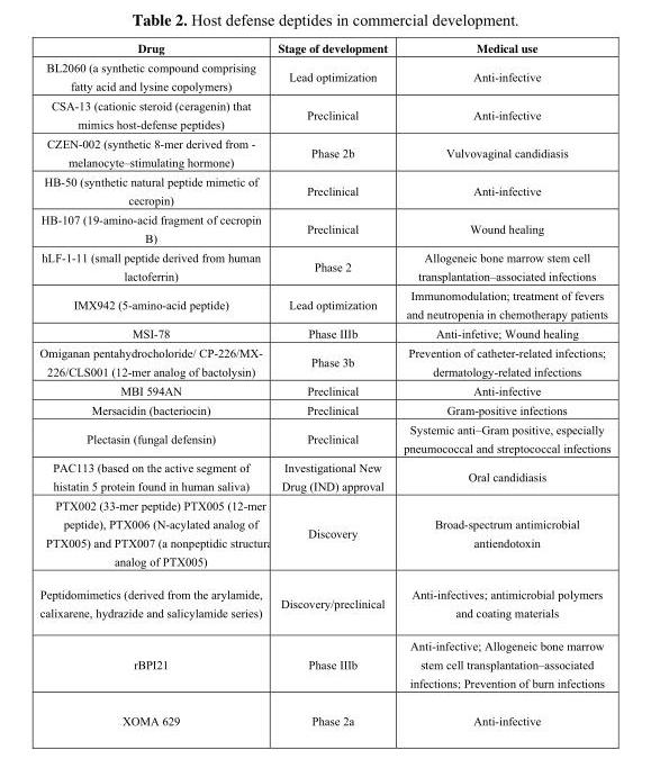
<table><thead><tr><td>Drug</td><td>Stage of development</td><td>Medical use</td></tr></thead><tbody><tr><td>BL2060 (a synthetic compound comprising fatty acid and lysine copolymers)</td><td>Lead optimization</td><td>Anti-infective</td></tr><tr><td>CSA-13 (cationic steroid (ceragenin) that mimics host-defense peptides)</td><td>Preclinical</td><td>Anti-infective</td></tr><tr><td>CZEN-002 (synthetic 8-mer derived from - melanocyte–stimulating hormone)</td><td>Phase 2b</td><td>Vulvovaginal candidiasis</td></tr><tr><td>HB-50 (synthetic natural peptide mimetic of cecropin)</td><td>Preclinical</td><td>Anti-infective</td></tr><tr><td>HB-107 (19-amino-acid fragment of cecropin B)</td><td>Preclinical</td><td>Wound healing</td></tr><tr><td>hLF-1-11 (small peptide derived from human lactoferrin)</td><td>Phase 2</td><td>Allogeneic bone marrow stem cell transplantation–associated infections</td></tr><tr><td>IMX942 (5-amino-acid peptide)</td><td>Lead optimization</td><td>Immunomodulation; treatment of fevers and neutropenia in chemotherapy patients</td></tr><tr><td>MSI-78</td><td>Phase IIIb</td><td>Anti-infetive; Wound healing</td></tr><tr><td>Omiganan pentahydrocholoride/ CP-226/MX- 226/CLS001 (12-mer analog of bactolysin)</td><td>Phase 3b</td><td>Prevention of catheter-related infections; dermatology-related infections</td></tr><tr><td>MBI 594AN</td><td>Preclinical</td><td>Anti-infective</td></tr><tr><td>Mersacidin (bacteriocin)</td><td>Preclinical</td><td>Gram-positive infections</td></tr><tr><td>Plectasin (fungal defensin)</td><td>Preclinical</td><td>Systemic anti–Gram positive, especially pneumococcal and streptococcal infections</td></tr><tr><td>PAC113 (based on the active segment of histatin 5 protein found in human saliva)</td><td>Investigational New Drug (IND) approval</td><td>Oral candidiasis</td></tr><tr><td>PTX002 (33-mer peptide) PTX005 (12-mer peptide), PTX006 (N-acylated analog of PTX005) and PTX007 (a nonpeptidic structura analog of PTX005)</td><td>Discovery</td><td>Broad-spectrum antimicrobial antiendotoxin</td></tr><tr><td>Peptidomimetics (derived from the arylamide, calixarene, hydrazide and salicylamide series)</td><td>Discovery/preclinical</td><td>Anti-infectives; antimicrobial polymers and coating materials</td></tr><tr><td>rBPI21</td><td>Phase IIIb</td><td>Anti-infective; Allogeneic bone marrow stem cell transplantation–associated infections; Prevention of burn infections</td></tr><tr><td>XOMA 629</td><td>Phase 2a</td><td>Anti-infective</td></tr></tbody></table>